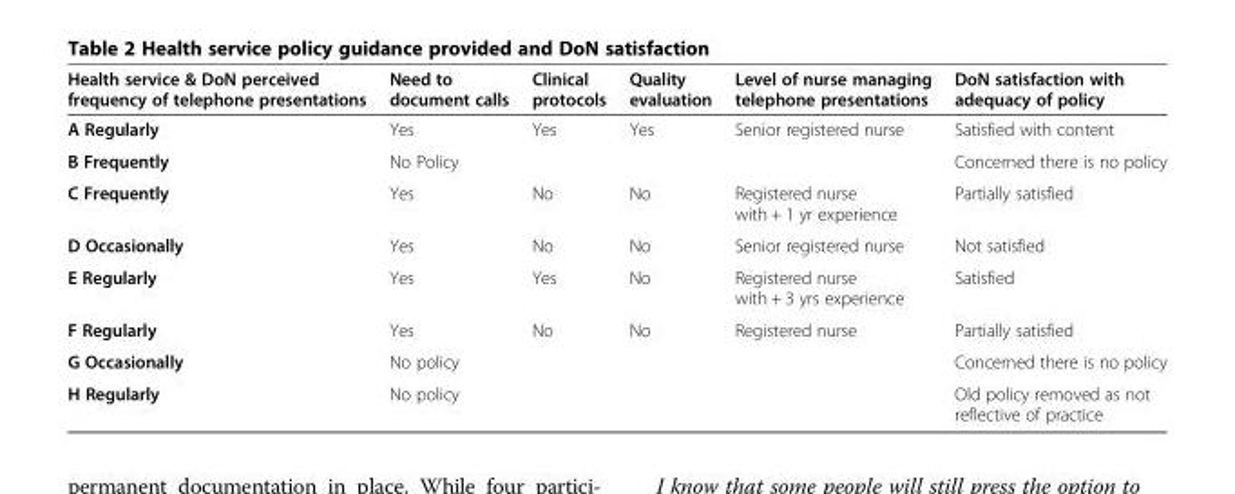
<table><thead><tr><td>Health service &amp; DoN perceived frequency of telephone presentations</td><td>Need to document calls</td><td>Clinical protocols</td><td>Quality evaluation</td><td>Level of nurse managing telephone presentations</td><td>DoN satisfaction with adequacy of policy</td></tr></thead><tbody><tr><td>A Regularly</td><td>Yes</td><td>Yes</td><td>Yes</td><td>Senior registered nurse</td><td>Satisfied with content</td></tr><tr><td>B Frequently</td><td colspan="4">No Policy</td><td>Concerned there is no policy</td></tr><tr><td>C Frequently</td><td>Yes</td><td>No</td><td>No</td><td>Registered nurse with + 1 yr experience</td><td>Partially satisfied</td></tr><tr><td>D Occasionally</td><td>Yes</td><td>No</td><td>No</td><td>Senior registered nurse</td><td>Not satisfied</td></tr><tr><td>E Regularly</td><td>Yes</td><td>Yes</td><td>No</td><td>Registered nurse with + 3 yrs experience</td><td>Satisfied</td></tr><tr><td>F Regularly</td><td>Yes</td><td>No</td><td>No</td><td>Registered nurse</td><td>Partially satisfied</td></tr><tr><td>G Occasionally</td><td colspan="4">No policy</td><td>Concerned there is no policy</td></tr><tr><td>H Regularly</td><td colspan="4">No policy</td><td>Old policy removed as not reflective of practice</td></tr></tbody></table>